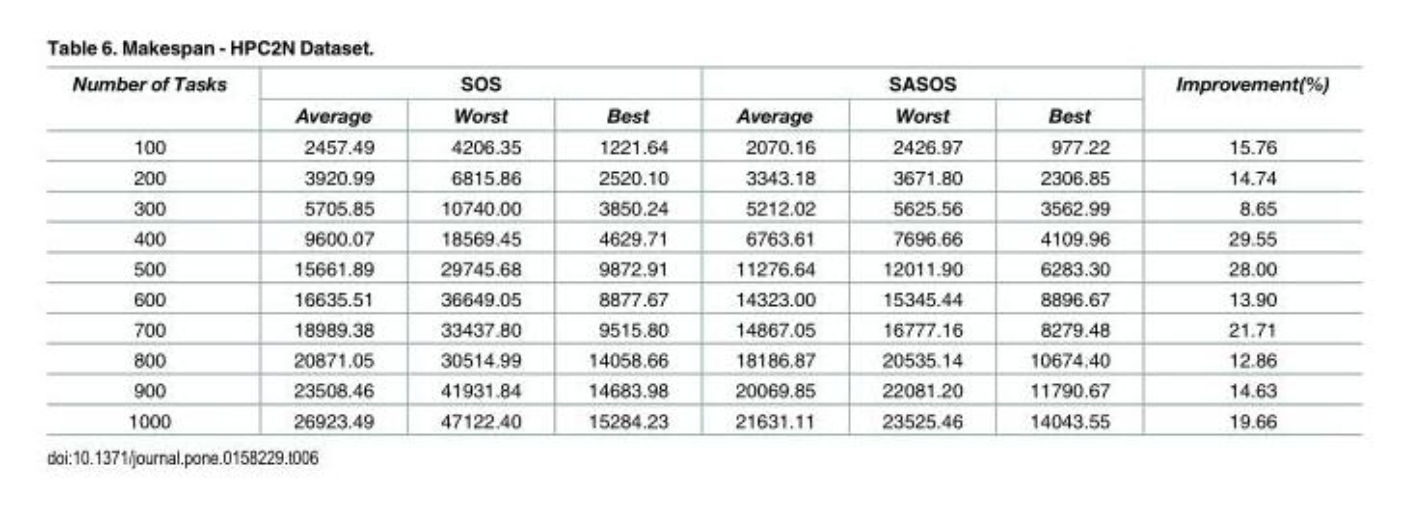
<table><thead><tr><td rowspan="2">Number of Tasks</td><td colspan="3">SOS</td><td colspan="3">SASOS</td><td rowspan="2">Improvement(%)</td></tr><tr><td>Average</td><td>Worst</td><td>Best</td><td>Average</td><td>Worst</td><td>Best</td></tr></thead><tbody><tr><td>100</td><td>2457.49</td><td>4206.35</td><td>1221.64</td><td>2070.16</td><td>2426.97</td><td>977.22</td><td>15.76</td></tr><tr><td>200</td><td>3920.99</td><td>6815.86</td><td>2520.10</td><td>3343.18</td><td>3671.80</td><td>2306.85</td><td>14.74</td></tr><tr><td>300</td><td>5705.85</td><td>10740.00</td><td>3850.24</td><td>5212.02</td><td>5625.56</td><td>3562.99</td><td>8.65</td></tr><tr><td>400</td><td>9600.07</td><td>18569.45</td><td>4629.71</td><td>6763.61</td><td>7696.66</td><td>4109.96</td><td>29.55</td></tr><tr><td>500</td><td>15661.89</td><td>29745.68</td><td>9872.91</td><td>11276.64</td><td>12011.90</td><td>6283.30</td><td>28.00</td></tr><tr><td>600</td><td>16635.51</td><td>36649.05</td><td>8877.67</td><td>14323.00</td><td>15345.44</td><td>8896.67</td><td>13.90</td></tr><tr><td>700</td><td>18989.38</td><td>33437.80</td><td>9515.80</td><td>14867.05</td><td>16777.16</td><td>8279.48</td><td>21.71</td></tr><tr><td>800</td><td>20871.05</td><td>30514.99</td><td>14058.66</td><td>18186.87</td><td>20535.14</td><td>10674.40</td><td>12.86</td></tr><tr><td>900</td><td>23508.46</td><td>41931.84</td><td>14683.98</td><td>20069.85</td><td>22081.20</td><td>11790.67</td><td>14.63</td></tr><tr><td>1000</td><td>26923.49</td><td>47122.40</td><td>15284.23</td><td>21631.11</td><td>23525.46</td><td>14043.55</td><td>19.66</td></tr></tbody></table>